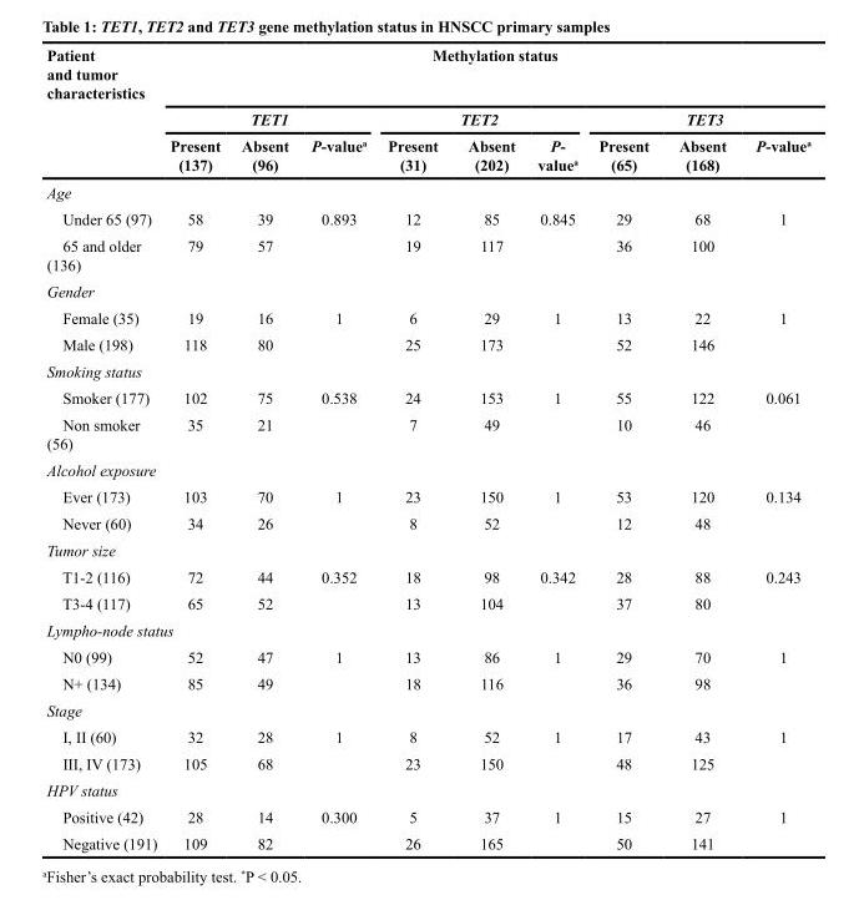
<table><thead><tr><td rowspan="3">Patient and tumor characteristics</td><td colspan="9">Methylation status</td></tr><tr><td colspan="3">TET1</td><td colspan="3">TET2</td><td colspan="3">TET3</td></tr><tr><td>Present (137)</td><td>Absent (96)</td><td>P-value<sup>a</sup></td><td>Present (31)</td><td>Absent (202)</td><td>P- value<sup>a</sup></td><td>Present (65)</td><td>Absent (168)</td><td>P-value<sup>a</sup></td></tr></thead><tbody><tr><td colspan="10">Age</td></tr><tr><td>Under 65 (97)</td><td>58</td><td>39</td><td rowspan="2">0.893</td><td>12</td><td>85</td><td rowspan="2">0.845</td><td>29</td><td>68</td><td rowspan="2">1</td></tr><tr><td>65 and older (136)</td><td>79</td><td>57</td><td>19</td><td>117</td><td>36</td><td>100</td></tr><tr><td colspan="10">Gender</td></tr><tr><td>Female (35)</td><td>19</td><td>16</td><td rowspan="2">1</td><td>6</td><td>29</td><td rowspan="2">1</td><td>13</td><td>22</td><td rowspan="2">1</td></tr><tr><td>Male (198)</td><td>118</td><td>80</td><td>25</td><td>173</td><td>52</td><td>146</td></tr><tr><td colspan="10">Smoking status</td></tr><tr><td>Smoker (177)</td><td>102</td><td>75</td><td rowspan="2">0.538</td><td>24</td><td>153</td><td rowspan="2">1</td><td>55</td><td>122</td><td rowspan="2">0.061</td></tr><tr><td>Non smoker (56)</td><td>35</td><td>21</td><td>7</td><td>49</td><td>10</td><td>46</td></tr><tr><td colspan="10">Alcohol exposure</td></tr><tr><td>Ever (173)</td><td>103</td><td>70</td><td rowspan="2">1</td><td>23</td><td>150</td><td rowspan="2">1</td><td>53</td><td>120</td><td rowspan="2">0.134</td></tr><tr><td>Never (60)</td><td>34</td><td>26</td><td>8</td><td>52</td><td>12</td><td>48</td></tr><tr><td colspan="10">Tumor size</td></tr><tr><td>T1-2 (116)</td><td>72</td><td>44</td><td rowspan="2">0.352</td><td>18</td><td>98</td><td rowspan="2">0.342</td><td>28</td><td>88</td><td rowspan="2">0.243</td></tr><tr><td>T3-4 (117)</td><td>65</td><td>52</td><td>13</td><td>104</td><td>37</td><td>80</td></tr><tr><td colspan="10">Lympho-node status</td></tr><tr><td>N0 (99)</td><td>52</td><td>47</td><td rowspan="2">1</td><td>13</td><td>86</td><td rowspan="2">1</td><td>29</td><td>70</td><td rowspan="2">1</td></tr><tr><td>N+ (134)</td><td>85</td><td>49</td><td>18</td><td>116</td><td>36</td><td>98</td></tr><tr><td colspan="10">Stage</td></tr><tr><td>I, II (60)</td><td>32</td><td>28</td><td rowspan="2">1</td><td>8</td><td>52</td><td rowspan="2">1</td><td>17</td><td>43</td><td rowspan="2">1</td></tr><tr><td>III, IV (173)</td><td>105</td><td>68</td><td>23</td><td>150</td><td>48</td><td>125</td></tr><tr><td colspan="10">HPV status</td></tr><tr><td>Positive (42)</td><td>28</td><td>14</td><td rowspan="2">0.300</td><td>5</td><td>37</td><td rowspan="2">1</td><td>15</td><td>27</td><td rowspan="2">1</td></tr><tr><td>Negative (191)</td><td>109</td><td>82</td><td>26</td><td>165</td><td>50</td><td>141</td></tr></tbody></table>